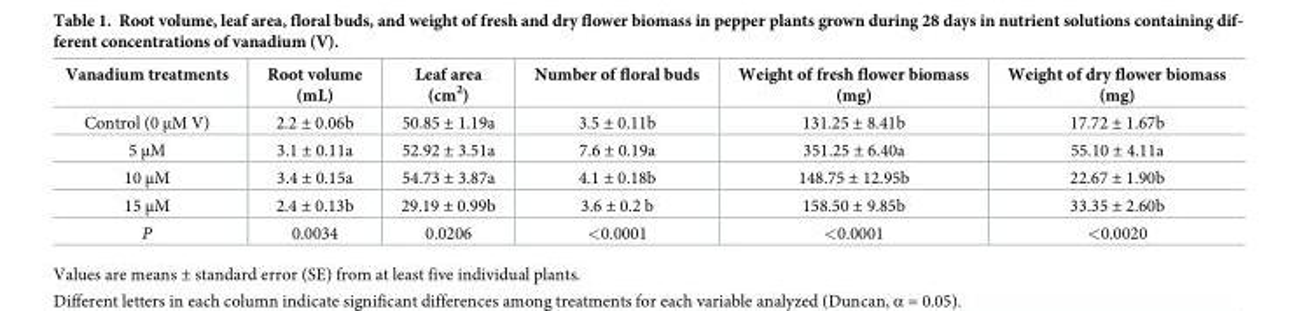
<table><thead><tr><td>Vanadium treatments</td><td>Root volume (mL)</td><td>Leaf area (cm<sup>2</sup>)</td><td>Number of floral buds</td><td>Weight of fresh flower biomass (mg)</td><td>Weight of dry flower biomass (mg)</td></tr></thead><tbody><tr><td>Control (0 μM V)</td><td>2.2 ± 0.06b</td><td>50.85 ± 1.19a</td><td>3.5 ± 0.11b</td><td>131.25 ± 8.41b</td><td>17.72 ± 1.67b</td></tr><tr><td>5 μM</td><td>3.1 ± 0.11a</td><td>52.92 ± 3.51a</td><td>7.6 ± 0.19a</td><td>351.25 ± 6.40a</td><td>55.10 ± 4.11a</td></tr><tr><td>10 μM</td><td>3.4 ± 0.15a</td><td>54.73 ± 3.87a</td><td>4.1 ± 0.18b</td><td>148.75 ± 12.95b</td><td>22.67 ± 1.90b</td></tr><tr><td>15 μM</td><td>2.4 ± 0.13b</td><td>29.19 ± 0.99b</td><td>3.6 ± 0.2 b</td><td>158.50 ± 9.85b</td><td>33.35 ± 2.60b</td></tr><tr><td>P</td><td>0.0034</td><td>0.0206</td><td>&lt;0.0001</td><td>&lt;0.0001</td><td>&lt;0.0020</td></tr></tbody></table>